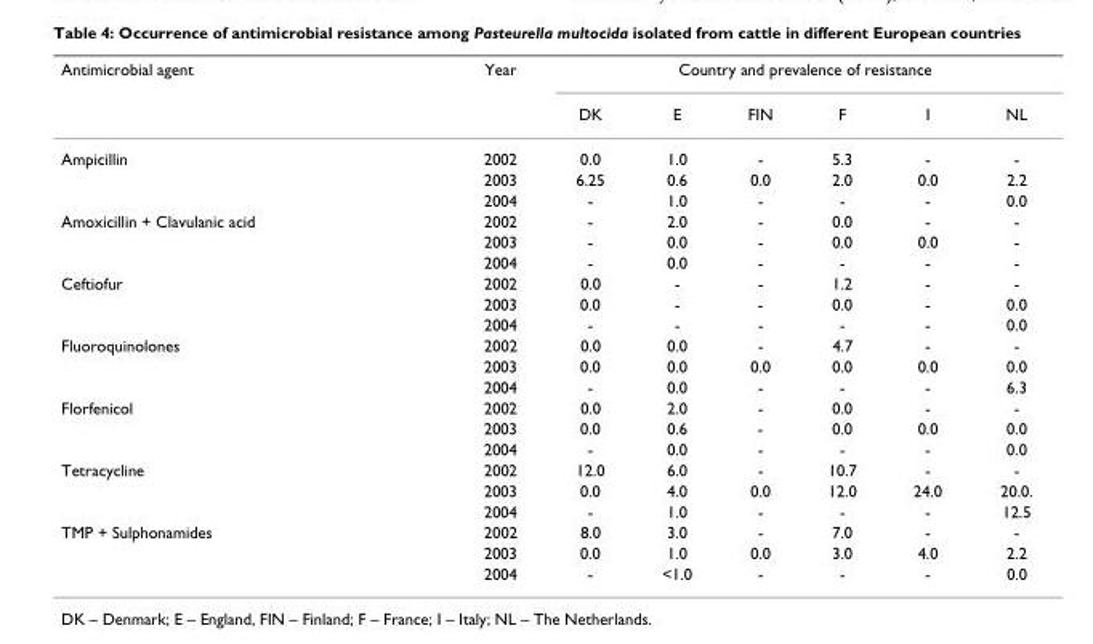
<table><thead><tr><td rowspan="2">Antimicrobial agent</td><td rowspan="2">Year</td><td colspan="6">Country and prevalence of resistance</td></tr><tr><td>DK</td><td>E</td><td>FIN</td><td>F</td><td>I</td><td>NL</td></tr></thead><tbody><tr><td rowspan="3">Ampicillin</td><td>2002</td><td>0.0</td><td>1.0</td><td>-</td><td>5.3</td><td>-</td><td>-</td></tr><tr><td>2003</td><td>6.25</td><td>0.6</td><td>0.0</td><td>2.0</td><td>0.0</td><td>2.2</td></tr><tr><td>2004</td><td>-</td><td>1.0</td><td>-</td><td>-</td><td>-</td><td>0.0</td></tr><tr><td rowspan="3">Amoxicillin + Clavulanic acid</td><td>2002</td><td>-</td><td>2.0</td><td>-</td><td>0.0</td><td>-</td><td>-</td></tr><tr><td>2003</td><td>-</td><td>0.0</td><td>-</td><td>0.0</td><td>0.0</td><td>-</td></tr><tr><td>2004</td><td>-</td><td>0.0</td><td>-</td><td>-</td><td>-</td><td>-</td></tr><tr><td rowspan="3">Ceftiofur</td><td>2002</td><td>0.0</td><td>-</td><td>-</td><td>1.2</td><td>-</td><td>-</td></tr><tr><td>2003</td><td>0.0</td><td>-</td><td>-</td><td>0.0</td><td>-</td><td>0.0</td></tr><tr><td>2004</td><td>-</td><td>-</td><td>-</td><td>-</td><td>-</td><td>0.0</td></tr><tr><td rowspan="3">Fluoroquinolones</td><td>2002</td><td>0.0</td><td>0.0</td><td>-</td><td>4.7</td><td>-</td><td>-</td></tr><tr><td>2003</td><td>0.0</td><td>0.0</td><td>0.0</td><td>0.0</td><td>0.0</td><td>0.0</td></tr><tr><td>2004</td><td>-</td><td>0.0</td><td>-</td><td>-</td><td>-</td><td>6.3</td></tr><tr><td rowspan="3">Florfenicol</td><td>2002</td><td>0.0</td><td>2.0</td><td>-</td><td>0.0</td><td>-</td><td>-</td></tr><tr><td>2003</td><td>0.0</td><td>0.6</td><td>-</td><td>0.0</td><td>0.0</td><td>0.0</td></tr><tr><td>2004</td><td>-</td><td>0.0</td><td>-</td><td>-</td><td>-</td><td>0.0</td></tr><tr><td rowspan="3">Tetracycline</td><td>2002</td><td>12.0</td><td>6.0</td><td>-</td><td>10.7</td><td>-</td><td>-</td></tr><tr><td>2003</td><td>0.0</td><td>4.0</td><td>0.0</td><td>12.0</td><td>24.0</td><td>20.0.</td></tr><tr><td>2004</td><td>-</td><td>1.0</td><td>-</td><td>-</td><td>-</td><td>12.5</td></tr><tr><td rowspan="3">TMP + Sulphonamides</td><td>2002</td><td>8.0</td><td>3.0</td><td>-</td><td>7.0</td><td>-</td><td>-</td></tr><tr><td>2003</td><td>0.0</td><td>1.0</td><td>0.0</td><td>3.0</td><td>4.0</td><td>2.2</td></tr><tr><td>2004</td><td>-</td><td>&lt;1.0</td><td>-</td><td>-</td><td>-</td><td>0.0</td></tr></tbody></table>